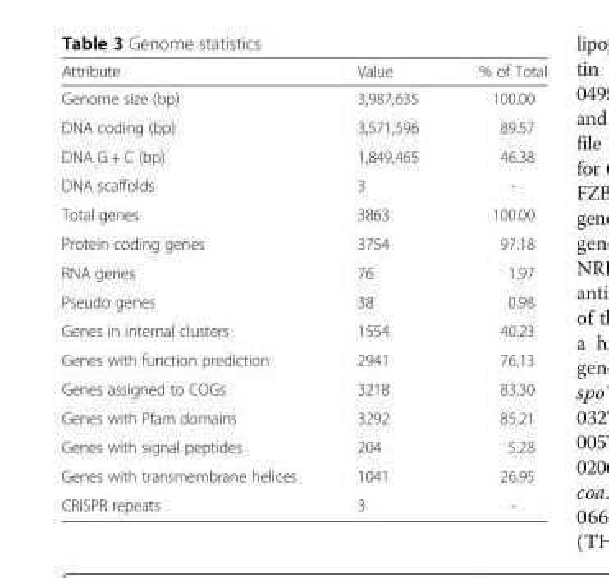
<table><thead><tr><td>Attribute</td><td>Value</td><td>% of Total</td></tr></thead><tbody><tr><td>Genome size (bp)</td><td>3,987,635</td><td>100.00</td></tr><tr><td>DNA coding (bp)</td><td>3,571,596</td><td>89.57</td></tr><tr><td>DNA G + C (bp)</td><td>1,849,465</td><td>46.38</td></tr><tr><td>DNA scaffolds</td><td>3</td><td>-</td></tr><tr><td>Total genes</td><td>3863</td><td>100.00</td></tr><tr><td>Protein coding genes</td><td>3754</td><td>97.18</td></tr><tr><td>RNA genes</td><td>76</td><td>1.97</td></tr><tr><td>Pseudo genes</td><td>38</td><td>0.98</td></tr><tr><td>Genes in internal clusters</td><td>1554</td><td>40.23</td></tr><tr><td>Genes with function prediction</td><td>2941</td><td>76.13</td></tr><tr><td>Genes assigned to COGs</td><td>3218</td><td>83.30</td></tr><tr><td>Genes with Pfam domains</td><td>3292</td><td>85.21</td></tr><tr><td>Genes with signal peptides</td><td>204</td><td>5.28</td></tr><tr><td>Genes with transmembrane helices</td><td>1041</td><td>26.95</td></tr><tr><td>CRISPR repeats</td><td>3</td><td>-</td></tr></tbody></table>